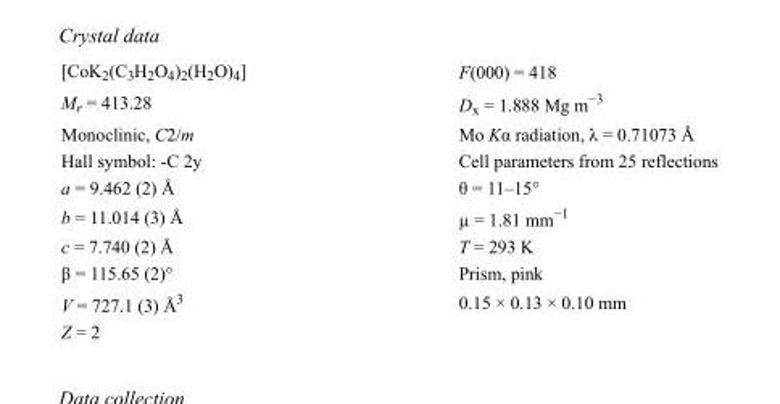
<table><tbody><tr><td>[CoK<sub>2</sub>(C<sub>3</sub>H<sub>2</sub>O<sub>4</sub>)<sub>2</sub>(H<sub>2</sub>O)<sub>4</sub>]</td><td>F(000) = 418</td></tr><tr><td>M<sub>r</sub> = 413.28</td><td>D<sub>x</sub> = 1.888 Mg m<sup>−3</sup></td></tr><tr><td>Monoclinic, C2/m</td><td>Mo Kα radiation, λ = 0.71073 Å</td></tr><tr><td>Hall symbol: -C 2y</td><td>Cell parameters from 25 reflections</td></tr><tr><td>a = 9.462 (2) Å</td><td>θ = 11–15°</td></tr><tr><td>b = 11.014 (3) Å</td><td>µ = 1.81 mm<sup>−1</sup></td></tr><tr><td>c = 7.740 (2) Å</td><td>T = 293 K</td></tr><tr><td>β = 115.65 (2)°</td><td>Prism, pink</td></tr><tr><td>V = 727.1 (3) Å<sup>3</sup></td><td>0.15 × 0.13 × 0.10 mm</td></tr><tr><td>Z = 2</td><td></td></tr></tbody></table>